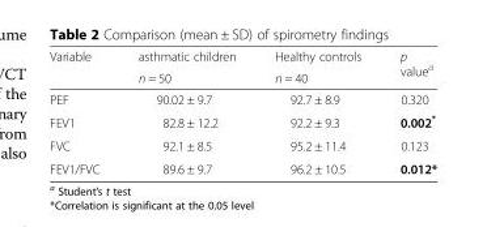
<table><thead><tr><td rowspan="2">Variable</td><td rowspan="2">asthmatic children n = 50</td><td rowspan="2">Healthy controls n = 40</td><td rowspan="2">p value<sup>a</sup></td></tr><tr></tr></thead><tbody><tr><td>PEF</td><td>90.02 ± 9.7</td><td>92.7 ± 8.9</td><td>0.320</td></tr><tr><td>FEV1</td><td>82.8 ± 12.2</td><td>92.2 ± 9.3</td><td>0.002*</td></tr><tr><td>FVC</td><td>92.1 ± 8.5</td><td>95.2 ± 11.4</td><td>0.123</td></tr><tr><td>FEV1/FVC</td><td>89.6 ± 9.7</td><td>96.2 ± 10.5</td><td>0.012*</td></tr></tbody></table>